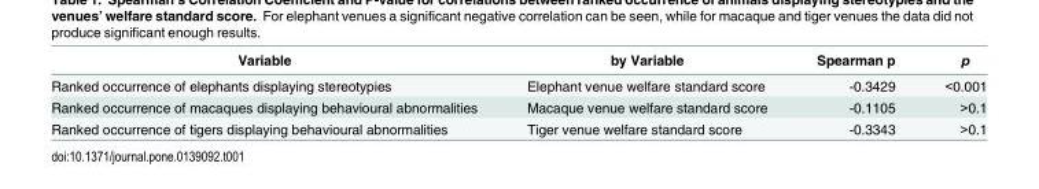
<table><thead><tr><td>Variable</td><td>by Variable</td><td>Spearman p</td><td>p</td></tr></thead><tbody><tr><td>Ranked occurrence of elephants displaying stereotypies</td><td>Elephant venue welfare standard score</td><td>-0.3429</td><td>&lt;0.001</td></tr><tr><td>Ranked occurrence of macaques displaying behavioural abnormalities</td><td>Macaque venue welfare standard score</td><td>-0.1105</td><td>&gt;0.1</td></tr><tr><td>Ranked occurrence of tigers displaying behavioural abnormalities</td><td>Tiger venue welfare standard score</td><td>-0.3343</td><td>&gt;0.1</td></tr></tbody></table>